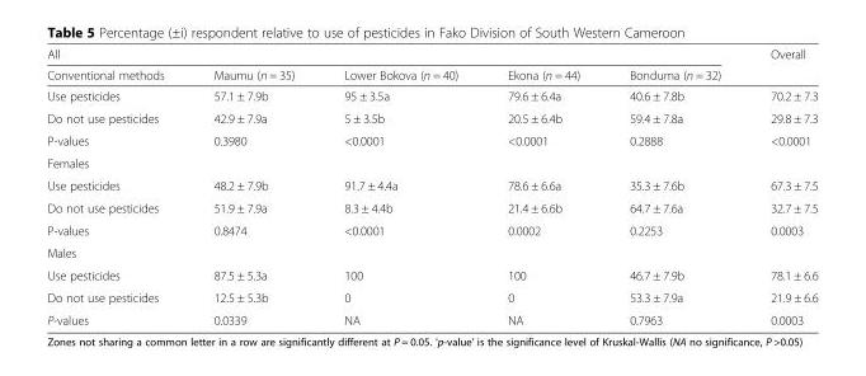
<table><thead><tr><td colspan="5">All</td><td rowspan="2">Overall</td></tr><tr><td>Conventional methods</td><td>Maumu (n = 35)</td><td>Lower Bokova (n = 40)</td><td>Ekona (n = 44)</td><td>Bonduma (n = 32)</td></tr></thead><tbody><tr><td>Use pesticides</td><td>57.1 ± 7.9b</td><td>95 ± 3.5a</td><td>79.6 ± 6.4a</td><td>40.6 ± 7.8b</td><td>70.2 ± 7.3</td></tr><tr><td>Do not use pesticides</td><td>42.9 ± 7.9a</td><td>5 ± 3.5b</td><td>20.5 ± 6.4b</td><td>59.4 ± 7.8a</td><td>29.8 ± 7.3</td></tr><tr><td>P-values</td><td>0.3980</td><td>&lt;0.0001</td><td>&lt;0.0001</td><td>0.2888</td><td>&lt;0.0001</td></tr><tr><td colspan="6">Females</td></tr><tr><td>Use pesticides</td><td>48.2 ± 7.9b</td><td>91.7 ± 4.4a</td><td>78.6 ± 6.6a</td><td>35.3 ± 7.6b</td><td>67.3 ± 7.5</td></tr><tr><td>Do not use pesticides</td><td>51.9 ± 7.9a</td><td>8.3 ± 4.4b</td><td>21.4 ± 6.6b</td><td>64.7 ± 7.6a</td><td>32.7 ± 7.5</td></tr><tr><td>P-values</td><td>0.8474</td><td>&lt;0.0001</td><td>0.0002</td><td>0.2253</td><td>0.0003</td></tr><tr><td colspan="6">Males</td></tr><tr><td>Use pesticides</td><td>87.5 ± 5.3a</td><td>100</td><td>100</td><td>46.7 ± 7.9b</td><td>78.1 ± 6.6</td></tr><tr><td>Do not use pesticides</td><td>12.5 ± 5.3b</td><td>0</td><td>0</td><td>53.3 ± 7.9a</td><td>21.9 ± 6.6</td></tr><tr><td>P-values</td><td>0.0339</td><td>NA</td><td>NA</td><td>0.7963</td><td>0.0003</td></tr></tbody></table>